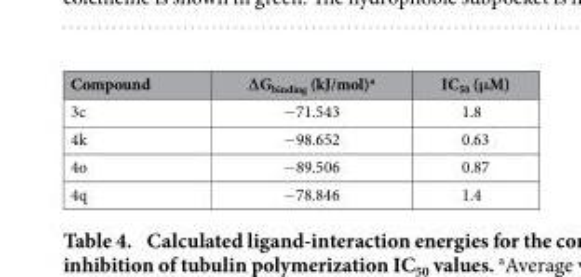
<table><thead><tr><td>Compound</td><td>∆Gbinding (kJ/mol)a</td><td>IC<sub>50</sub> (μM)</td></tr></thead><tbody><tr><td>3c</td><td>− 71.543</td><td>1.8</td></tr><tr><td>4k</td><td>− 98.652</td><td>0.63</td></tr><tr><td>4o</td><td>− 89.506</td><td>0.87</td></tr><tr><td>4q</td><td>− 78.846</td><td>1.4</td></tr></tbody></table>